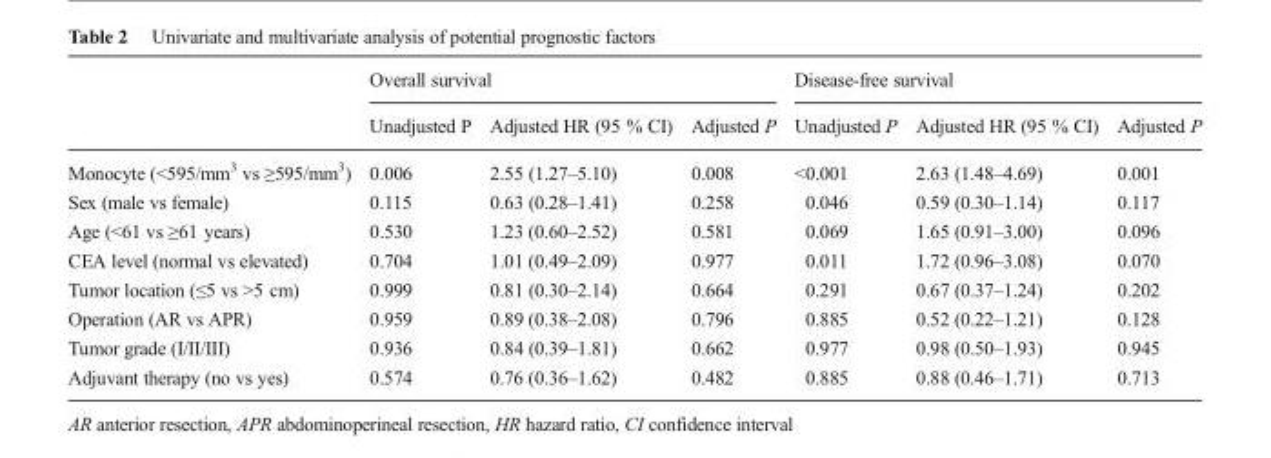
<table><thead><tr><td rowspan="2"></td><td colspan="3">Overall survival</td><td colspan="3">Disease-free survival</td></tr><tr><td>Unadjusted P</td><td>Adjusted HR (95 % CI)</td><td>Adjusted P</td><td>Unadjusted P</td><td>Adjusted HR (95 % CI)</td><td>Adjusted P</td></tr></thead><tbody><tr><td>Monocyte (&lt;595/mm<sup>3</sup> vs ≥595/mm<sup>3</sup>)</td><td>0.006</td><td>2.55 (1.27–5.10)</td><td>0.008</td><td>&lt;0.001</td><td>2.63 (1.48–4.69)</td><td>0.001</td></tr><tr><td>Sex (male vs female)</td><td>0.115</td><td>0.63 (0.28–1.41)</td><td>0.258</td><td>0.046</td><td>0.59 (0.30–1.14)</td><td>0.117</td></tr><tr><td>Age (&lt;61 vs ≥61 years)</td><td>0.530</td><td>1.23 (0.60–2.52)</td><td>0.581</td><td>0.069</td><td>1.65 (0.91–3.00)</td><td>0.096</td></tr><tr><td>CEA level (normal vs elevated)</td><td>0.704</td><td>1.01 (0.49–2.09)</td><td>0.977</td><td>0.011</td><td>1.72 (0.96–3.08)</td><td>0.070</td></tr><tr><td>Tumor location (≤5 vs &gt;5 cm)</td><td>0.999</td><td>0.81 (0.30–2.14)</td><td>0.664</td><td>0.291</td><td>0.67 (0.37–1.24)</td><td>0.202</td></tr><tr><td>Operation (AR vs APR)</td><td>0.959</td><td>0.89 (0.38–2.08)</td><td>0.796</td><td>0.885</td><td>0.52 (0.22–1.21)</td><td>0.128</td></tr><tr><td>Tumor grade (I/II/III)</td><td>0.936</td><td>0.84 (0.39–1.81)</td><td>0.662</td><td>0.977</td><td>0.98 (0.50–1.93)</td><td>0.945</td></tr><tr><td>Adjuvant therapy (no vs yes)</td><td>0.574</td><td>0.76 (0.36–1.62)</td><td>0.482</td><td>0.885</td><td>0.88 (0.46–1.71)</td><td>0.713</td></tr></tbody></table>